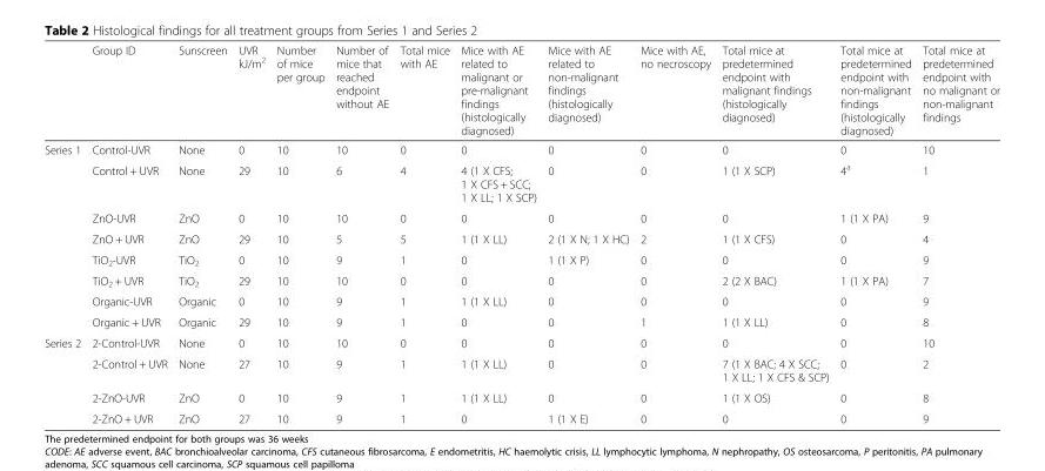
<table><thead><tr><td></td><td>Group ID</td><td>Sunscreen</td><td>UVR kJ/m<sup>2</sup></td><td>Number of mice per group</td><td>Number of mice that reached endpoint without AE</td><td>Total mice with AE</td><td>Mice with AE related to malignant or pre-malignant findings (histologically diagnosed)</td><td>Mice with AE related to non-malignant findings (histologically diagnosed)</td><td>Mice with AE, no necroscopy</td><td>Total mice at predetermined endpoint with malignant findings (histologically diagnosed)</td><td>Total mice at predetermined endpoint with non-malignant findings (histologically diagnosed)</td><td>Total mice at predetermined endpoint with no malignant or non-malignant findings</td></tr></thead><tbody><tr><td rowspan="8">Series 1</td><td>Control-UVR</td><td>None</td><td>0</td><td>10</td><td>10</td><td>0</td><td>0</td><td>0</td><td>0</td><td>0</td><td>0</td><td>10</td></tr><tr><td>Control + UVR</td><td>None</td><td>29</td><td>10</td><td>6</td><td>4</td><td>4 (1 X CFS; 1 X CFS + SCC; 1 X LL; 1 X SCP)</td><td>0</td><td>0</td><td>1 (1 X SCP)</td><td>4<sup>a</sup></td><td>1</td></tr><tr><td>ZnO-UVR</td><td>ZnO</td><td>0</td><td>10</td><td>10</td><td>0</td><td>0</td><td>0</td><td>0</td><td>0</td><td>1 (1 X PA)</td><td>9</td></tr><tr><td>ZnO + UVR</td><td>ZnO</td><td>29</td><td>10</td><td>5</td><td>5</td><td>1 (1 X LL)</td><td>2 (1 X N; 1 X HC)</td><td>2</td><td>1 (1 X CFS)</td><td>0</td><td>4</td></tr><tr><td>TiO<sub>2</sub>-UVR</td><td>TiO<sub>2</sub></td><td>0</td><td>10</td><td>9</td><td>1</td><td>0</td><td>1 (1 X P)</td><td>0</td><td>0</td><td>0</td><td>9</td></tr><tr><td>TiO<sub>2</sub> + UVR</td><td>TiO<sub>2</sub></td><td>29</td><td>10</td><td>10</td><td>0</td><td>0</td><td>0</td><td>0</td><td>2 (2 X BAC)</td><td>1 (1 X PA)</td><td>7</td></tr><tr><td>Organic-UVR</td><td>Organic</td><td>0</td><td>10</td><td>9</td><td>1</td><td>1 (1 X LL)</td><td>0</td><td>0</td><td>0</td><td>0</td><td>9</td></tr><tr><td>Organic + UVR</td><td>Organic</td><td>29</td><td>10</td><td>9</td><td>1</td><td>0</td><td>0</td><td>1</td><td>1 (1 X LL)</td><td>0</td><td>8</td></tr><tr><td rowspan="4">Series 2</td><td>2-Control-UVR</td><td>None</td><td>0</td><td>10</td><td>10</td><td>0</td><td>0</td><td>0</td><td>0</td><td>0</td><td>0</td><td>10</td></tr><tr><td>2-Control + UVR</td><td>None</td><td>27</td><td>10</td><td>9</td><td>1</td><td>1 (1 X LL)</td><td>0</td><td>0</td><td>7 (1 X BAC; 4 X SCC; 1 X LL; 1 X CFS &amp; SCP)</td><td>0</td><td>2</td></tr><tr><td>2-ZnO-UVR</td><td>ZnO</td><td>0</td><td>10</td><td>9</td><td>1</td><td>1 (1 X LL)</td><td>0</td><td>0</td><td>1 (1 X OS)</td><td>0</td><td>8</td></tr><tr><td>2-ZnO + UVR</td><td>ZnO</td><td>27</td><td>10</td><td>9</td><td>1</td><td>0</td><td>1 (1 X E)</td><td>0</td><td>0</td><td>0</td><td>9</td></tr></tbody></table>